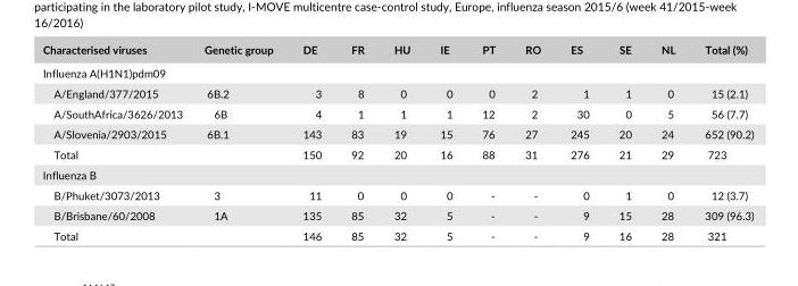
<table><thead><tr><td>Characterised viruses</td><td>Genetic group</td><td>DE</td><td>FR</td><td>HU</td><td>IE</td><td>PT</td><td>RO</td><td>ES</td><td>SE</td><td>NL</td><td>Total (%)</td></tr></thead><tbody><tr><td colspan="12">Influenza A(H1N1)pdm09</td></tr><tr><td>A/England/377/2015</td><td>6B.2</td><td>3</td><td>8</td><td>0</td><td>0</td><td>0</td><td>2</td><td>1</td><td>1</td><td>0</td><td>15 (2.1)</td></tr><tr><td>A/SouthAfrica/3626/2013</td><td>6B</td><td>4</td><td>1</td><td>1</td><td>1</td><td>12</td><td>2</td><td>30</td><td>0</td><td>5</td><td>56 (7.7)</td></tr><tr><td>A/Slovenia/2903/2015</td><td>6B.1</td><td>143</td><td>83</td><td>19</td><td>15</td><td>76</td><td>27</td><td>245</td><td>20</td><td>24</td><td>652 (90.2)</td></tr><tr><td>Total</td><td></td><td>150</td><td>92</td><td>20</td><td>16</td><td>88</td><td>31</td><td>276</td><td>21</td><td>29</td><td>723</td></tr><tr><td colspan="12">Influenza B</td></tr><tr><td>B/Phuket/3073/2013</td><td>3</td><td>11</td><td>0</td><td>0</td><td>0</td><td>-</td><td>-</td><td>0</td><td>1</td><td>0</td><td>12 (3.7)</td></tr><tr><td>B/Brisbane/60/2008</td><td>1A</td><td>135</td><td>85</td><td>32</td><td>5</td><td>-</td><td>-</td><td>9</td><td>15</td><td>28</td><td>309 (96.3)</td></tr><tr><td>Total</td><td></td><td>146</td><td>85</td><td>32</td><td>5</td><td>-</td><td>-</td><td>9</td><td>16</td><td>28</td><td>321</td></tr></tbody></table>